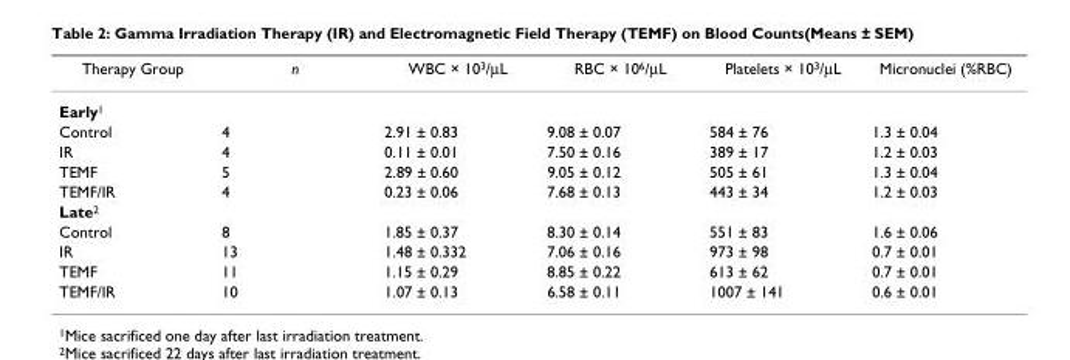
<table><thead><tr><td>Therapy Group</td><td>n</td><td>WBC × 10<sup>3</sup>/µL</td><td>RBC × 10<sup>6</sup>/µL</td><td>Platelets × 10<sup>3</sup>/µL</td><td>Micronuclei (%RBC)</td></tr></thead><tbody><tr><td colspan="6">Early<sup>1</sup></td></tr><tr><td>Control</td><td>4</td><td>2.91 ± 0.83</td><td>9.08 ± 0.07</td><td>584 ± 76</td><td>1.3 ± 0.04</td></tr><tr><td>IR</td><td>4</td><td>0.11 ± 0.01</td><td>7.50 ± 0.16</td><td>389 ± 17</td><td>1.2 ± 0.03</td></tr><tr><td>TEMF</td><td>5</td><td>2.89 ± 0.60</td><td>9.05 ± 0.12</td><td>505 ± 61</td><td>1.3 ± 0.04</td></tr><tr><td>TEMF/IR</td><td>4</td><td>0.23 ± 0.06</td><td>7.68 ± 0.13</td><td>443 ± 34</td><td>1.2 ± 0.03</td></tr><tr><td colspan="6">Late<sup>2</sup></td></tr><tr><td>Control</td><td>8</td><td>1.85 ± 0.37</td><td>8.30 ± 0.14</td><td>551 ± 83</td><td>1.6 ± 0.06</td></tr><tr><td>IR</td><td>13</td><td>1.48 ± 0.332</td><td>7.06 ± 0.16</td><td>973 ± 98</td><td>0.7 ± 0.01</td></tr><tr><td>TEMF</td><td>11</td><td>1.15 ± 0.29</td><td>8.85 ± 0.22</td><td>613 ± 62</td><td>0.7 ± 0.01</td></tr><tr><td>TEMF/IR</td><td>10</td><td>1.07 ± 0.13</td><td>6.58 ± 0.11</td><td>1007 ± 141</td><td>0.6 ± 0.01</td></tr></tbody></table>